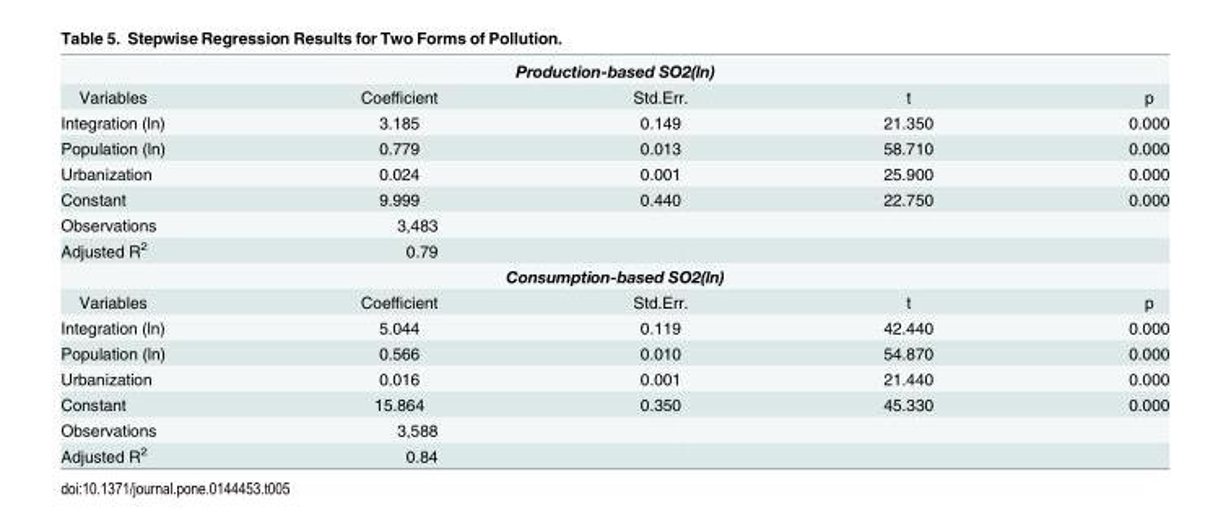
<table><tbody><tr><td colspan="5">Production-based SO2(ln)</td></tr><tr><td>Variables</td><td>Coefficient</td><td>Std.Err.</td><td>t</td><td>p</td></tr><tr><td>Integration (ln)</td><td>3.185</td><td>0.149</td><td>21.350</td><td>0.000</td></tr><tr><td>Population (ln)</td><td>0.779</td><td>0.013</td><td>58.710</td><td>0.000</td></tr><tr><td>Urbanization</td><td>0.024</td><td>0.001</td><td>25.900</td><td>0.000</td></tr><tr><td>Constant</td><td>9.999</td><td>0.440</td><td>22.750</td><td>0.000</td></tr><tr><td>Observations</td><td>3,483</td><td></td><td></td><td></td></tr><tr><td>Adjusted R<sup>2</sup></td><td>0.79</td><td></td><td></td><td></td></tr><tr><td colspan="5">Consumption-based SO2(ln)</td></tr><tr><td>Variables</td><td>Coefficient</td><td>Std.Err.</td><td>t</td><td>p</td></tr><tr><td>Integration (ln)</td><td>5.044</td><td>0.119</td><td>42.440</td><td>0.000</td></tr><tr><td>Population (ln)</td><td>0.566</td><td>0.010</td><td>54.870</td><td>0.000</td></tr><tr><td>Urbanization</td><td>0.016</td><td>0.001</td><td>21.440</td><td>0.000</td></tr><tr><td>Constant</td><td>15.864</td><td>0.350</td><td>45.330</td><td>0.000</td></tr><tr><td>Observations</td><td>3,588</td><td></td><td></td><td></td></tr><tr><td>Adjusted R<sup>2</sup></td><td>0.84</td><td></td><td></td><td></td></tr></tbody></table>